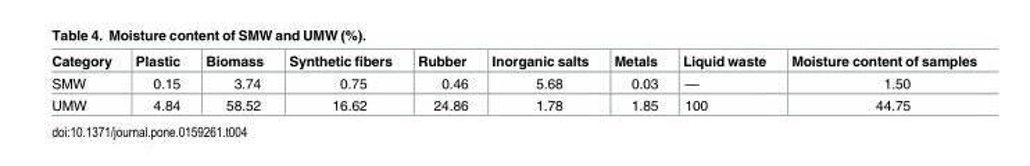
<table><thead><tr><td>Category</td><td>Plastic</td><td>Biomass</td><td>Synthetic fibers</td><td>Rubber</td><td>Inorganic salts</td><td>Metals</td><td>Liquid waste</td><td>Moisture content of samples</td></tr></thead><tbody><tr><td>SMW</td><td>0.15</td><td>3.74</td><td>0.75</td><td>0.46</td><td>5.68</td><td>0.03</td><td>—</td><td>1.50</td></tr><tr><td>UMW</td><td>4.84</td><td>58.52</td><td>16.62</td><td>24.86</td><td>1.78</td><td>1.85</td><td>100</td><td>44.75</td></tr></tbody></table>